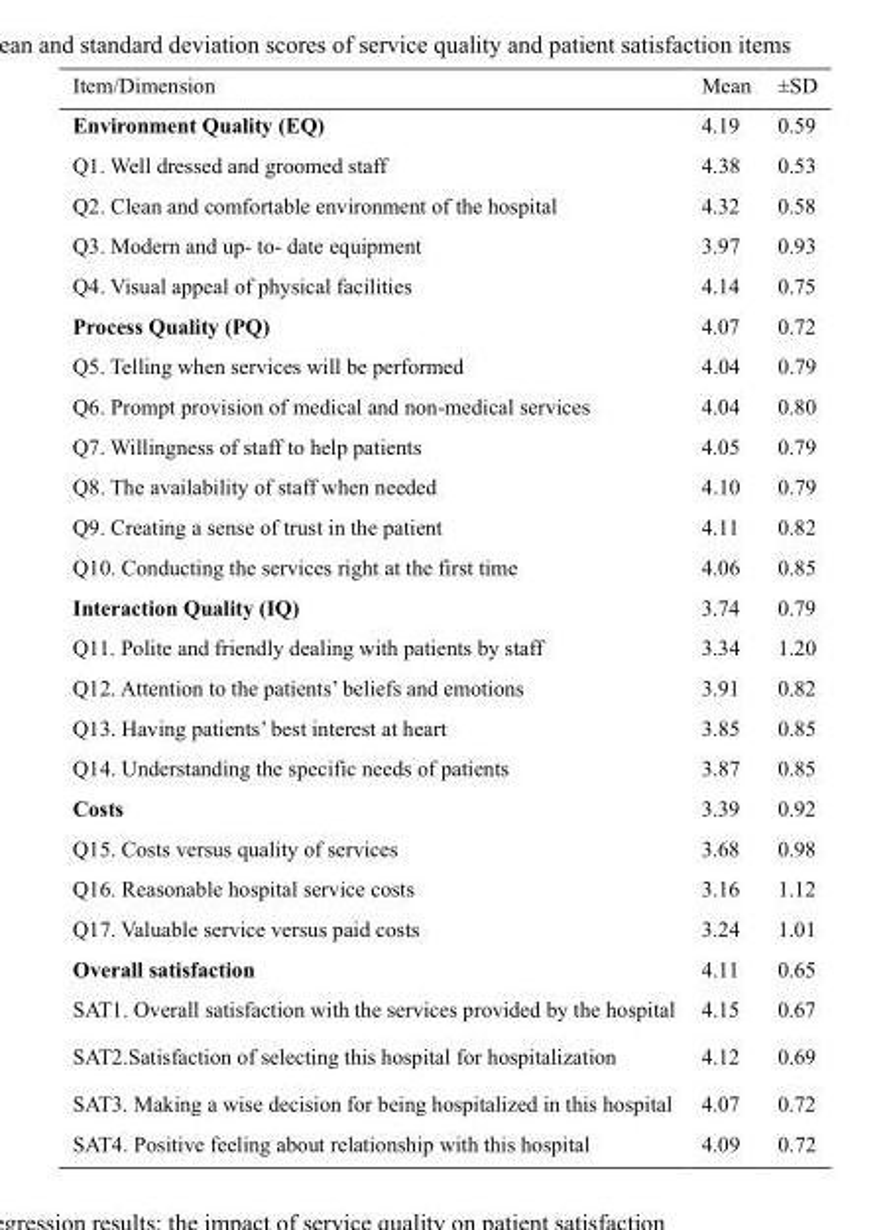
<table><thead><tr><td>Item/Dimension</td><td>Mean</td><td>±SD</td></tr></thead><tbody><tr><td>Environment Quality (EQ)</td><td>4.19</td><td>0.59</td></tr><tr><td>Q1. Well dressed and groomed staff</td><td>4.38</td><td>0.53</td></tr><tr><td>Q2. Clean and comfortable environment of the hospital</td><td>4.32</td><td>0.58</td></tr><tr><td>Q3. Modern and up- to- date equipment</td><td>3.97</td><td>0.93</td></tr><tr><td>Q4. Visual appeal of physical facilities</td><td>4.14</td><td>0.75</td></tr><tr><td>Process Quality (PQ)</td><td>4.07</td><td>0.72</td></tr><tr><td>Q5. Telling when services will be performed</td><td>4.04</td><td>0.79</td></tr><tr><td>Q6. Prompt provision of medical and non-medical services</td><td>4.04</td><td>0.80</td></tr><tr><td>Q7. Willingness of staff to help patients</td><td>4.05</td><td>0.79</td></tr><tr><td>Q8. The availability of staff when needed</td><td>4.10</td><td>0.79</td></tr><tr><td>Q9. Creating a sense of trust in the patient</td><td>4.11</td><td>0.82</td></tr><tr><td>Q10. Conducting the services right at the first time</td><td>4.06</td><td>0.85</td></tr><tr><td>Interaction Quality (IQ)</td><td>3.74</td><td>0.79</td></tr><tr><td>Q11. Polite and friendly dealing with patients by staff</td><td>3.34</td><td>1.20</td></tr><tr><td>Q12. Attention to the patients’ beliefs and emotions</td><td>3.91</td><td>0.82</td></tr><tr><td>Q13. Having patients’ best interest at heart</td><td>3.85</td><td>0.85</td></tr><tr><td>Q14. Understanding the specific needs of patients</td><td>3.87</td><td>0.85</td></tr><tr><td>Costs</td><td>3.39</td><td>0.92</td></tr><tr><td>Q15. Costs versus quality of services</td><td>3.68</td><td>0.98</td></tr><tr><td>Q16. Reasonable hospital service costs</td><td>3.16</td><td>1.12</td></tr><tr><td>Q17. Valuable service versus paid costs</td><td>3.24</td><td>1.01</td></tr><tr><td>Overall satisfaction</td><td>4.11</td><td>0.65</td></tr><tr><td>SAT1. Overall satisfaction with the services provided by the hospital</td><td>4.15</td><td>0.67</td></tr><tr><td>SAT2.Satisfaction of selecting this hospital for hospitalization</td><td>4.12</td><td>0.69</td></tr><tr><td>SAT3. Making a wise decision for being hospitalized in this hospital</td><td>4.07</td><td>0.72</td></tr><tr><td>SAT4. Positive feeling about relationship with this hospital</td><td>4.09</td><td>0.72</td></tr></tbody></table>